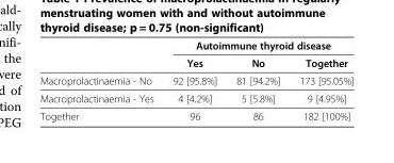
<table><thead><tr><td rowspan="2"></td><td colspan="3">Autoimmune thyroid disease</td></tr><tr><td>Yes</td><td>No</td><td>Together</td></tr></thead><tbody><tr><td>Macroprolactinaemia - No</td><td>92 [95.8%]</td><td>81 [94.2%]</td><td>173 [95.05%]</td></tr><tr><td>Macroprolactinaemia - Yes</td><td>4 [4.2%]</td><td>5 [5.8%]</td><td>9 [4.95%]</td></tr><tr><td>Together</td><td>96</td><td>86</td><td>182 [100%]</td></tr></tbody></table>